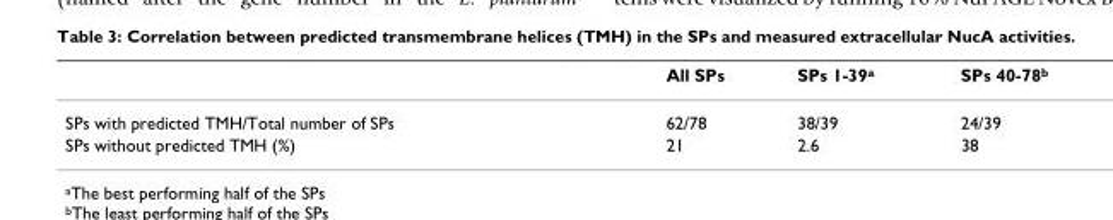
<table><thead><tr><td></td><td>All SPs</td><td>SPs 1-39<sup>a</sup></td><td>SPs 40-78<sup>b</sup></td></tr></thead><tbody><tr><td>SPs with predicted TMH/Total number of SPs</td><td>62/78</td><td>38/39</td><td>24/39</td></tr><tr><td>SPs without predicted TMH (%)</td><td>21</td><td>2.6</td><td>38</td></tr></tbody></table>